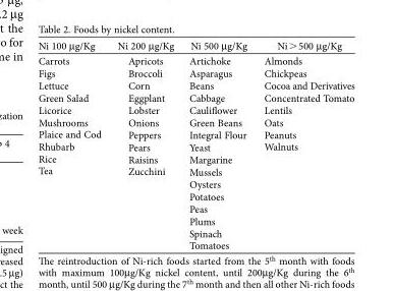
<table><thead><tr><td>Ni 100 μ g/Kg</td><td>Ni 200 μ g/Kg</td><td>Ni 500 μ g/Kg</td><td>Ni &gt; 500 μ g/Kg</td></tr></thead><tbody><tr><td>Carrots Figs Lettuce Green Salad Licorice Mushrooms Plaice and Cod Rhubarb Rice Tea</td><td>Apricots Broccoli Corn Eggplant Lobster Onions Peppers Pears Raisins Zucchini</td><td>Artichoke Asparagus Beans Cabbage Caulifl ower Green Beans Integral Flour Yeast Margarine Mussels Oysters Potatoes Peas Plums Spinach Tomatoes</td><td>Almonds Chickpeas Cocoa and Derivatives Concentrated Tomato Lentils Oats Peanuts Walnuts</td></tr></tbody></table>